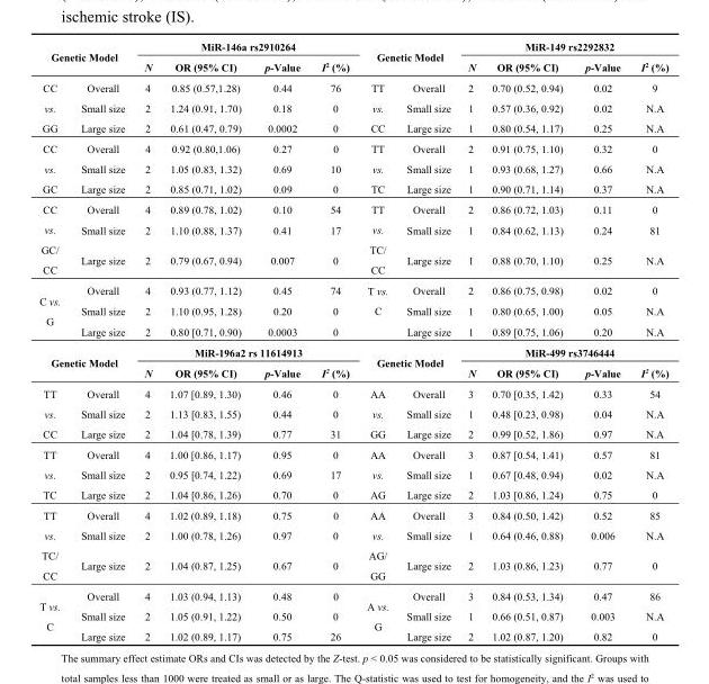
<table><tbody><tr><td rowspan="2" colspan="2">Genetic Model</td><td colspan="4">MiR-146a rs2910264</td><td rowspan="2" colspan="2">Genetic Model</td><td colspan="4">MiR-149 rs2292832</td></tr><tr><td>N</td><td>OR (95% CI)</td><td>p-Value</td><td>I<sup>2</sup> (%)</td><td>N</td><td>OR (95% CI)</td><td>p-Value</td><td>I<sup>2</sup> (%)</td></tr><tr><td rowspan="3">CC vs. GG</td><td>Overall</td><td>4</td><td>0.85 (0.57,1.28)</td><td>0.44</td><td>76</td><td rowspan="3">TT vs. CC</td><td>Overall</td><td>2</td><td>0.70 (0.52, 0.94)</td><td>0.02</td><td>9</td></tr><tr><td>Small size</td><td>2</td><td>1.24 (0.91, 1.70)</td><td>0.18</td><td>0</td><td>Small size</td><td>1</td><td>0.57 (0.36, 0.92)</td><td>0.02</td><td>N.A</td></tr><tr><td>Large size</td><td>2</td><td>0.61 (0.47, 0.79)</td><td>0.0002</td><td>0</td><td>Large size</td><td>1</td><td>0.80 (0.54, 1.17)</td><td>0.25</td><td>N.A</td></tr><tr><td rowspan="3">CC vs. GC</td><td>Overall</td><td>4</td><td>0.92 (0.80,1.06)</td><td>0.27</td><td>0</td><td rowspan="3">TT vs. TC</td><td>Overall</td><td>2</td><td>0.91 (0.75, 1.10)</td><td>0.32</td><td>0</td></tr><tr><td>Small size</td><td>2</td><td>1.05 (0.83, 1.32)</td><td>0.69</td><td>10</td><td>Small size</td><td>1</td><td>0.93 (0.68, 1.27)</td><td>0.66</td><td>N.A</td></tr><tr><td>Large size</td><td>2</td><td>0.85 (0.71, 1.02)</td><td>0.09</td><td>0</td><td>Large size</td><td>1</td><td>0.90 (0.71, 1.14)</td><td>0.37</td><td>N.A</td></tr><tr><td rowspan="3">CC vs. GC/ CC</td><td>Overall</td><td>4</td><td>0.89 (0.78, 1.02)</td><td>0.10</td><td>54</td><td rowspan="3">TT vs. TC/ CC</td><td>Overall</td><td>2</td><td>0.86 (0.72, 1.03)</td><td>0.11</td><td>0</td></tr><tr><td>Small size</td><td>2</td><td>1.10 (0.88, 1.37)</td><td>0.41</td><td>17</td><td>Small size</td><td>1</td><td>0.84 (0.62, 1.13)</td><td>0.24</td><td>81</td></tr><tr><td>Large size</td><td>2</td><td>0.79 (0.67, 0.94)</td><td>0.007</td><td>0</td><td>Large size</td><td>1</td><td>0.88 (0.70, 1.10)</td><td>0.25</td><td>N.A</td></tr><tr><td rowspan="3">C vs. G</td><td>Overall</td><td>4</td><td>0.93 (0.77, 1.12)</td><td>0.45</td><td>74</td><td rowspan="2">T vs. C</td><td>Overall</td><td>2</td><td>0.86 (0.75, 0.98)</td><td>0.02</td><td>0</td></tr><tr><td>Small size</td><td>2</td><td>1.10 (0.95, 1.28)</td><td>0.20</td><td>0</td><td>Small size</td><td>1</td><td>0.80 (0.65, 1.00)</td><td>0.05</td><td>N.A</td></tr><tr><td>Large size</td><td>2</td><td>0.80 [0.71, 0.90)</td><td>0.0003</td><td>0</td><td></td><td>Large size</td><td>1</td><td>0.89 [0.75, 1.06)</td><td>0.20</td><td>N.A</td></tr><tr><td rowspan="2" colspan="2">Genetic Model</td><td colspan="4">MiR-196a2 rs 11614913</td><td rowspan="2" colspan="2">Genetic Model</td><td colspan="4">MiR-499 rs3746444</td></tr><tr><td>N</td><td>OR (95% CI)</td><td>p-Value</td><td>I<sup>2</sup> (%)</td><td>N</td><td>OR (95% CI)</td><td>p-Value</td><td>I<sup>2</sup> (%)</td></tr><tr><td rowspan="3">TT vs. CC</td><td>Overall</td><td>4</td><td>1.07 [0.89, 1.30)</td><td>0.46</td><td>0</td><td rowspan="3">AA vs. GG</td><td>Overall</td><td>3</td><td>0.70 [0.35, 1.42)</td><td>0.33</td><td>54</td></tr><tr><td>Small size</td><td>2</td><td>1.13 [0.83, 1.55)</td><td>0.44</td><td>0</td><td>Small size</td><td>1</td><td>0.48 [0.23, 0.98)</td><td>0.04</td><td>N.A</td></tr><tr><td>Large size</td><td>2</td><td>1.04 [0.78, 1.39)</td><td>0.77</td><td>31</td><td>Large size</td><td>2</td><td>0.99 [0.52, 1.86)</td><td>0.97</td><td>N.A</td></tr><tr><td rowspan="3">TT vs. TC</td><td>Overall</td><td>4</td><td>1.00 [0.86, 1.17)</td><td>0.95</td><td>0</td><td rowspan="3">AA vs. AG</td><td>Overall</td><td>3</td><td>0.87 [0.54, 1.41)</td><td>0.57</td><td>81</td></tr><tr><td>Small size</td><td>2</td><td>0.95 [0.74, 1.22)</td><td>0.69</td><td>17</td><td>Small size</td><td>1</td><td>0.67 [0.48, 0.94)</td><td>0.02</td><td>N.A</td></tr><tr><td>Large size</td><td>2</td><td>1.04 [0.86, 1.26)</td><td>0.70</td><td>0</td><td>Large size</td><td>2</td><td>1.03 [0.86, 1.24)</td><td>0.75</td><td>0</td></tr><tr><td rowspan="3">TT vs. TC/ CC</td><td>Overall</td><td>4</td><td>1.02 (0.89, 1.18)</td><td>0.75</td><td>0</td><td rowspan="3">AA vs. AG/ GG</td><td>Overall</td><td>3</td><td>0.84 (0.50, 1.42)</td><td>0.52</td><td>85</td></tr><tr><td>Small size</td><td>2</td><td>1.00 (0.78, 1.26)</td><td>0.97</td><td>0</td><td>Small size</td><td>1</td><td>0.64 (0.46, 0.88)</td><td>0.006</td><td>N.A</td></tr><tr><td>Large size</td><td>2</td><td>1.04 (0.87, 1.25)</td><td>0.67</td><td>0</td><td>Large size</td><td>2</td><td>1.03 (0.86, 1.23)</td><td>0.77</td><td>0</td></tr><tr><td rowspan="3">T vs. C</td><td>Overall</td><td>4</td><td>1.03 (0.94, 1.13)</td><td>0.48</td><td>0</td><td rowspan="3">A vs. G</td><td>Overall</td><td>3</td><td>0.84 (0.53, 1.34)</td><td>0.47</td><td>86</td></tr><tr><td>Small size</td><td>2</td><td>1.05 (0.91, 1.22)</td><td>0.50</td><td>0</td><td>Small size</td><td>1</td><td>0.66 (0.51, 0.87)</td><td>0.003</td><td>N.A</td></tr><tr><td>Large size</td><td>2</td><td>1.02 (0.89, 1.17)</td><td>0.75</td><td>26</td><td>Large size</td><td>2</td><td>1.02 (0.87, 1.20)</td><td>0.82</td><td>0</td></tr></tbody></table>